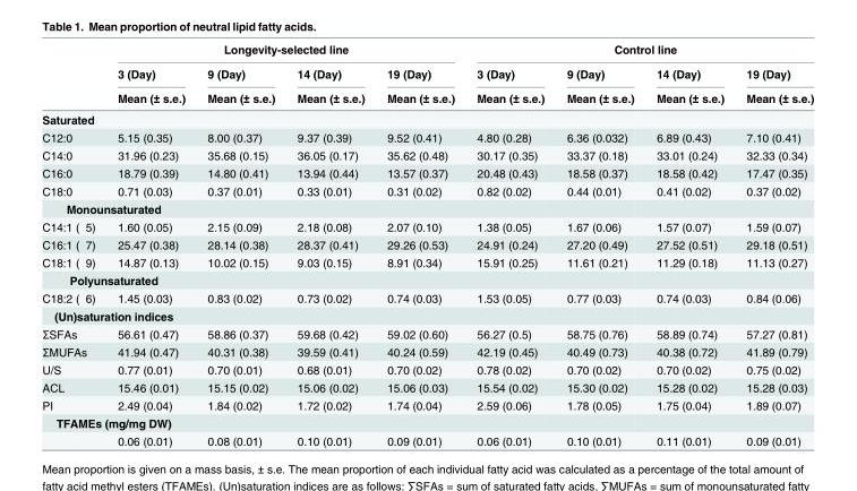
<table><thead><tr><td rowspan="3"></td><td colspan="4">Longevity-selected line</td><td colspan="4">Control line</td></tr><tr><td rowspan="2">3 (Day) Mean (± s.e.)</td><td rowspan="2">9 (Day) Mean (± s.e.)</td><td rowspan="2">14 (Day) Mean (± s.e.)</td><td rowspan="2">19 (Day) Mean (± s.e.)</td><td rowspan="2">3 (Day) Mean (± s.e.)</td><td rowspan="2">9 (Day) Mean (± s.e.)</td><td rowspan="2">14 (Day) Mean (± s.e.)</td><td rowspan="2">19 (Day) Mean (± s.e.)</td></tr><tr></tr></thead><tbody><tr><td colspan="9">Saturated</td></tr><tr><td>C12:0</td><td>5.15 (0.35)</td><td>8.00 (0.37)</td><td>9.37 (0.39)</td><td>9.52 (0.41)</td><td>4.80 (0.28)</td><td>6.36 (0.032)</td><td>6.89 (0.43)</td><td>7.10 (0.41)</td></tr><tr><td>C14:0</td><td>31.96 (0.23)</td><td>35.68 (0.15)</td><td>36.05 (0.17)</td><td>35.62 (0.48)</td><td>30.17 (0.35)</td><td>33.37 (0.18)</td><td>33.01 (0.24)</td><td>32.33 (0.34)</td></tr><tr><td>C16:0</td><td>18.79 (0.39)</td><td>14.80 (0.41)</td><td>13.94 (0.44)</td><td>13.57 (0.37)</td><td>20.48 (0.43)</td><td>18.58 (0.37)</td><td>18.58 (0.42)</td><td>17.47 (0.35)</td></tr><tr><td>C18:0</td><td>0.71 (0.03)</td><td>0.37 (0.01)</td><td>0.33 (0.01)</td><td>0.31 (0.02)</td><td>0.82 (0.02)</td><td>0.44 (0.01)</td><td>0.41 (0.02)</td><td>0.37 (0.02)</td></tr><tr><td colspan="9">Monounsaturated</td></tr><tr><td>C14:1 (ώ 5)</td><td>1.60 (0.05)</td><td>2.15 (0.09)</td><td>2.18 (0.08)</td><td>2.07 (0.10)</td><td>1.38 (0.05)</td><td>1.67 (0.06)</td><td>1.57 (0.07)</td><td>1.59 (0.07)</td></tr><tr><td>C16:1 (ώ 7)</td><td>25.47 (0.38)</td><td>28.14 (0.38)</td><td>28.37 (0.41)</td><td>29.26 (0.53)</td><td>24.91 (0.24)</td><td>27.20 (0.49)</td><td>27.52 (0.51)</td><td>29.18 (0.51)</td></tr><tr><td>C18:1 (ώ 9)</td><td>14.87 (0.13)</td><td>10.02 (0.15)</td><td>9.03 (0.15)</td><td>8.91 (0.34)</td><td>15.91 (0.25)</td><td>11.61 (0.21)</td><td>11.29 (0.18)</td><td>11.13 (0.27)</td></tr><tr><td colspan="9">Polyunsaturated</td></tr><tr><td>C18:2 (ώ 6)</td><td>1.45 (0.03)</td><td>0.83 (0.02)</td><td>0.73 (0.02)</td><td>0.74 (0.03)</td><td>1.53 (0.05)</td><td>0.77 (0.03)</td><td>0.74 (0.03)</td><td>0.84 (0.06)</td></tr><tr><td colspan="9">(Un)saturation indices</td></tr><tr><td>ΣSFAs</td><td>56.61 (0.47)</td><td>58.86 (0.37)</td><td>59.68 (0.42)</td><td>59.02 (0.60)</td><td>56.27 (0.5)</td><td>58.75 (0.76)</td><td>58.89 (0.74)</td><td>57.27 (0.81)</td></tr><tr><td>ΣMUFAs</td><td>41.94 (0.47)</td><td>40.31 (0.38)</td><td>39.59 (0.41)</td><td>40.24 (0.59)</td><td>42.19 (0.45)</td><td>40.49 (0.73)</td><td>40.38 (0.72)</td><td>41.89 (0.79)</td></tr><tr><td>U/S</td><td>0.77 (0.01)</td><td>0.70 (0.01)</td><td>0.68 (0.01)</td><td>0.70 (0.02)</td><td>0.78 (0.02)</td><td>0.70 (0.02)</td><td>0.70 (0.02)</td><td>0.75 (0.02)</td></tr><tr><td>ACL</td><td>15.46 (0.01)</td><td>15.15 (0.02)</td><td>15.06 (0.02)</td><td>15.06 (0.03)</td><td>15.54 (0.02)</td><td>15.30 (0.02)</td><td>15.28 (0.02)</td><td>15.28 (0.03)</td></tr><tr><td>PI</td><td>2.49 (0.04)</td><td>1.84 (0.02)</td><td>1.72 (0.02)</td><td>1.74 (0.04)</td><td>2.59 (0.06)</td><td>1.78 (0.05)</td><td>1.75 (0.04)</td><td>1.89 (0.07)</td></tr><tr><td colspan="9">TFAMEs (mg/mg DW)</td></tr><tr><td></td><td>0.06 (0.01)</td><td>0.08 (0.01)</td><td>0.10 (0.01)</td><td>0.09 (0.01)</td><td>0.06 (0.01)</td><td>0.10 (0.01)</td><td>0.11 (0.01)</td><td>0.09 (0.01)</td></tr></tbody></table>